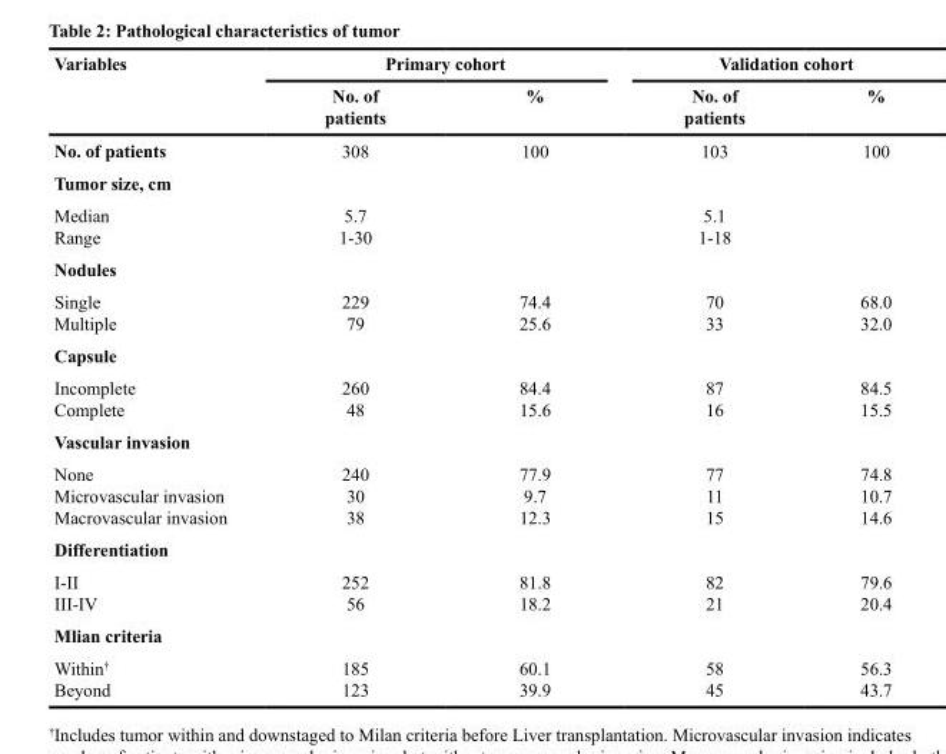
<table><thead><tr><td rowspan="2">Variables</td><td colspan="2">Primary cohort</td><td colspan="2">Validation cohort</td></tr><tr><td>No. of patients</td><td>%</td><td>No. of patients</td><td>%</td></tr></thead><tbody><tr><td>No. of patients</td><td>308</td><td>100</td><td>103</td><td>100</td></tr><tr><td colspan="5">Tumor size, cm</td></tr><tr><td>Median Range</td><td>5.7 1-30</td><td></td><td>5.1 1-18</td><td></td></tr><tr><td colspan="5">Nodules</td></tr><tr><td>Single Multiple</td><td>229 79</td><td>74.4 25.6</td><td>70 33</td><td>68.0 32.0</td></tr><tr><td colspan="5">Capsule</td></tr><tr><td>Incomplete Complete</td><td>260 48</td><td>84.4 15.6</td><td>87 16</td><td>84.5 15.5</td></tr><tr><td colspan="5">Vascular invasion</td></tr><tr><td>None Microvascular invasion Macrovascular invasion</td><td>240 30 38</td><td>77.9 9.7 12.3</td><td>77 11 15</td><td>74.8 10.7 14.6</td></tr><tr><td colspan="5">Differentiation</td></tr><tr><td>I-II III-IV</td><td>252 56</td><td>81.8 18.2</td><td>82 21</td><td>79.6 20.4</td></tr><tr><td colspan="5">Mlian criteria</td></tr><tr><td>Within<sup>†</sup> Beyond</td><td>185 123</td><td>60.1 39.9</td><td>58 45</td><td>56.3 43.7</td></tr></tbody></table>